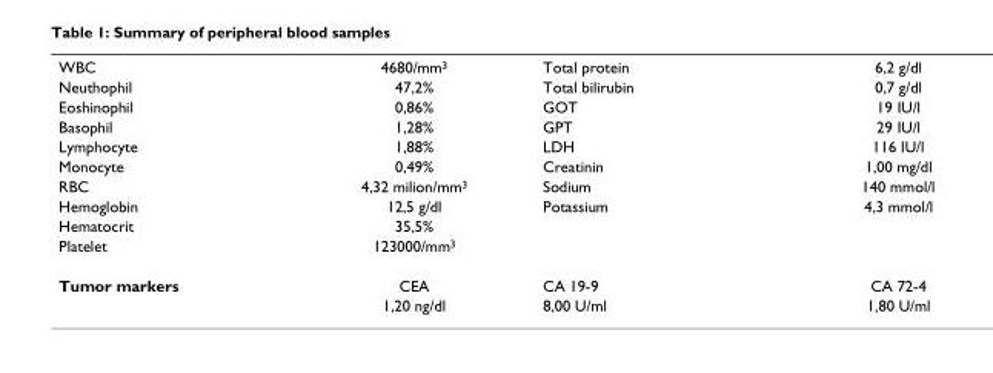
<table><tbody><tr><td>WBC</td><td>4680/mm<sup>3</sup></td><td>Total protein</td><td>6,2 g/dl</td></tr><tr><td>Neuthophil</td><td>47,2%</td><td>Total bilirubin</td><td>0,7 g/dl</td></tr><tr><td>Eoshinophil</td><td>0,86%</td><td>GOT</td><td>19 IU/l</td></tr><tr><td>Basophil</td><td>1,28%</td><td>GPT</td><td>29 IU/l</td></tr><tr><td>Lymphocyte</td><td>1,88%</td><td>LDH</td><td>116 IU/l</td></tr><tr><td>Monocyte</td><td>0,49%</td><td>Creatinin</td><td>1,00 mg/dl</td></tr><tr><td>RBC</td><td>4,32 milion/mm<sup>3</sup></td><td>Sodium</td><td>140 mmol/l</td></tr><tr><td>Hemoglobin</td><td>12,5 g/dl</td><td>Potassium</td><td>4,3 mmol/l</td></tr><tr><td>Hematocrit</td><td>35,5%</td><td></td><td></td></tr><tr><td>Platelet</td><td>123000/mm<sup>3</sup></td><td></td><td></td></tr><tr><td rowspan="2">Tumor markers</td><td>CEA</td><td>CA 19-9</td><td>CA 72-4</td></tr><tr><td>1,20 ng/dl</td><td>8,00 U/ml</td><td>1,80 U/ml</td></tr></tbody></table>